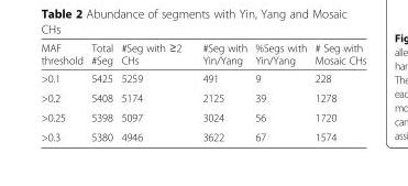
<table><thead><tr><td>MAF threshold</td><td>Total #Seg</td><td>#Seg with ≥2 CHs</td><td>#Seg with Yin/Yang</td><td>%Segs with Yin/Yang</td><td># Seg with Mosaic CHs</td></tr></thead><tbody><tr><td>&gt;0.1</td><td>5425</td><td>5259</td><td>491</td><td>9</td><td>228</td></tr><tr><td>&gt;0.2</td><td>5408</td><td>5174</td><td>2125</td><td>39</td><td>1278</td></tr><tr><td>&gt;0.25</td><td>5398</td><td>5097</td><td>3024</td><td>56</td><td>1720</td></tr><tr><td>&gt;0.3</td><td>5380</td><td>4946</td><td>3622</td><td>67</td><td>1574</td></tr></tbody></table>